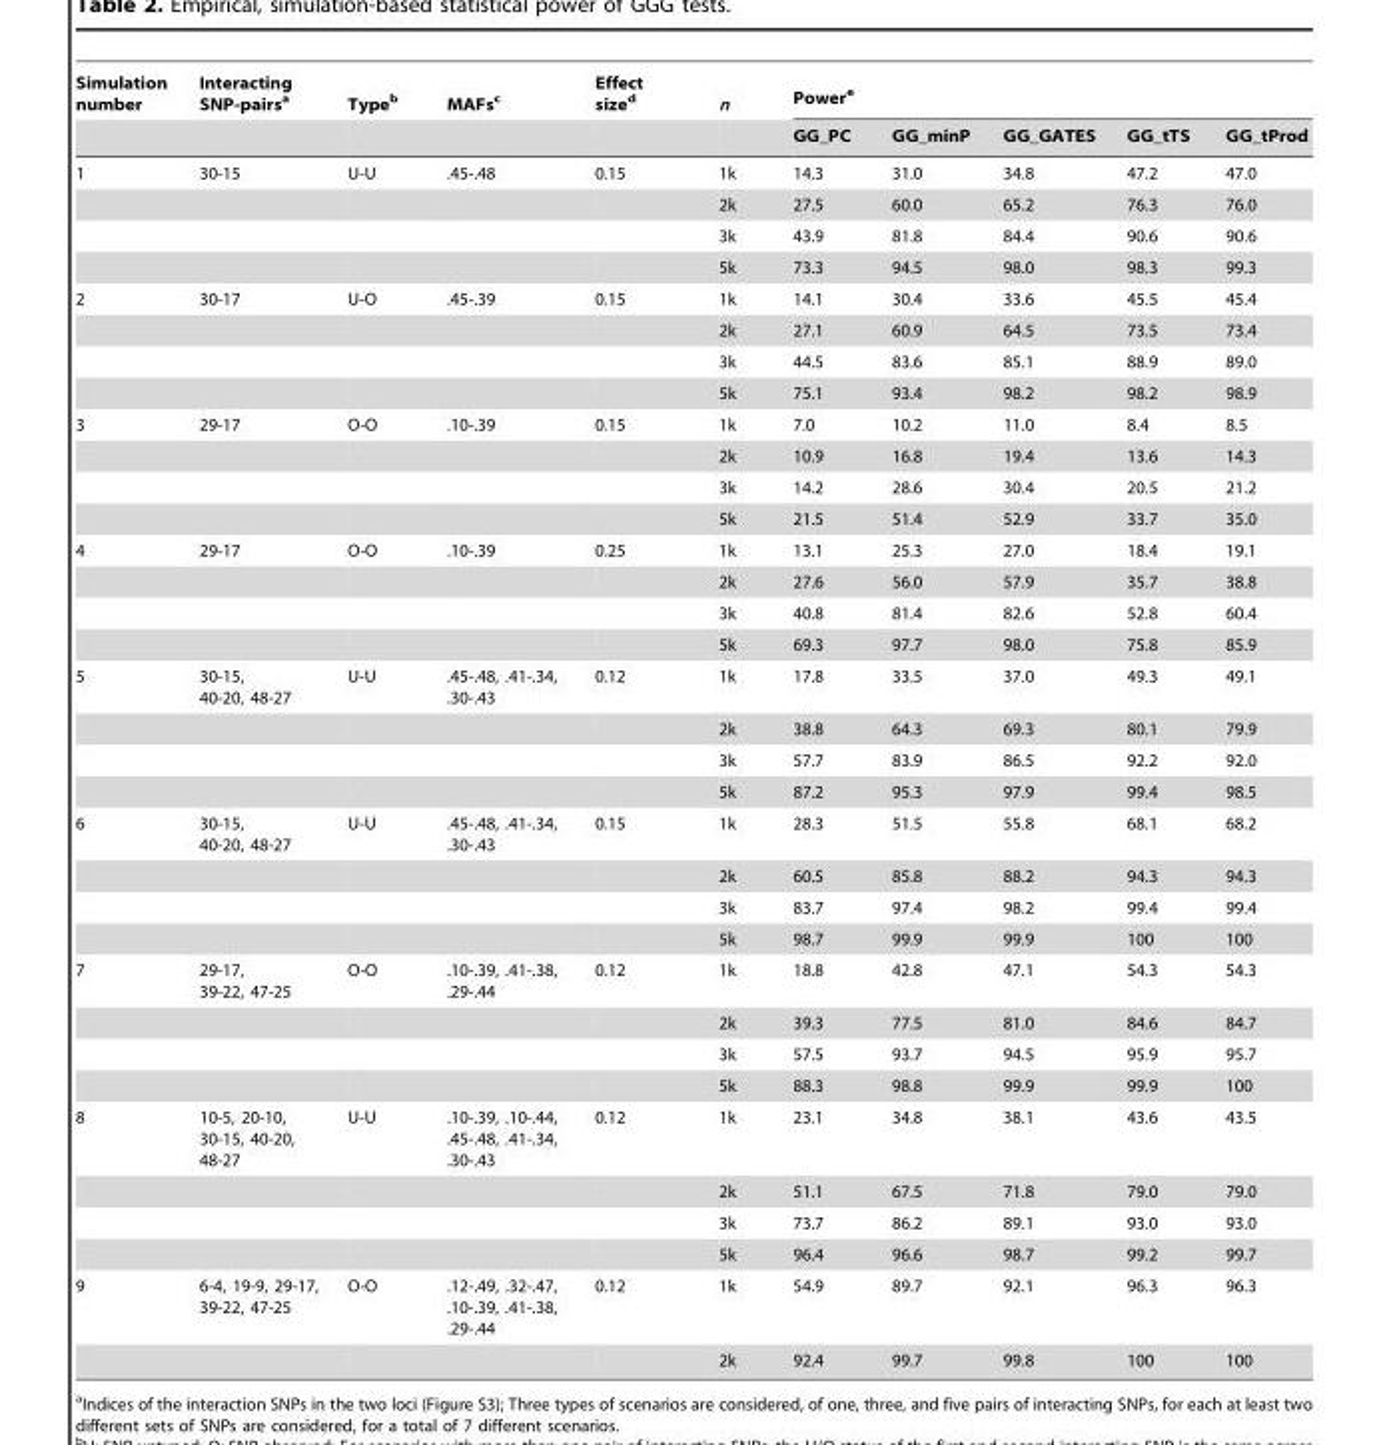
<table><thead><tr><td rowspan="2">Simulation number</td><td rowspan="2">Interacting SNP-pairs<sup>a</sup></td><td rowspan="2">Type<sup>b</sup></td><td rowspan="2">MAFs<sup>c</sup></td><td rowspan="2">Effect size<sup>d</sup></td><td rowspan="2">n</td><td colspan="5">Power<sup>e</sup></td></tr><tr><td>GG_PC</td><td>GG_minP</td><td>GG_GATES</td><td>GG_tTS</td><td>GG_tProd</td></tr></thead><tbody><tr><td rowspan="4">1</td><td>30-15</td><td>U-U</td><td>.45-.48</td><td>0.15</td><td>1k</td><td>14.3</td><td>31.0</td><td>34.8</td><td>47.2</td><td>47.0</td></tr><tr><td></td><td></td><td></td><td></td><td>2k</td><td>27.5</td><td>60.0</td><td>65.2</td><td>76.3</td><td>76.0</td></tr><tr><td></td><td></td><td></td><td></td><td>3k</td><td>43.9</td><td>81.8</td><td>84.4</td><td>90.6</td><td>90.6</td></tr><tr><td></td><td></td><td></td><td></td><td>5k</td><td>73.3</td><td>94.5</td><td>98.0</td><td>98.3</td><td>99.3</td></tr><tr><td rowspan="4">2</td><td>30-17</td><td>U-O</td><td>.45-.39</td><td>0.15</td><td>1k</td><td>14.1</td><td>30.4</td><td>33.6</td><td>45.5</td><td>45.4</td></tr><tr><td></td><td></td><td></td><td></td><td>2k</td><td>27.1</td><td>60.9</td><td>64.5</td><td>73.5</td><td>73.4</td></tr><tr><td></td><td></td><td></td><td></td><td>3k</td><td>44.5</td><td>83.6</td><td>85.1</td><td>88.9</td><td>89.0</td></tr><tr><td></td><td></td><td></td><td></td><td>5k</td><td>75.1</td><td>93.4</td><td>98.2</td><td>98.2</td><td>98.9</td></tr><tr><td rowspan="4">3</td><td>29-17</td><td>O-O</td><td>.10-.39</td><td>0.15</td><td>1k</td><td>7.0</td><td>10.2</td><td>11.0</td><td>8.4</td><td>8.5</td></tr><tr><td></td><td></td><td></td><td></td><td>2k</td><td>10.9</td><td>16.8</td><td>19.4</td><td>13.6</td><td>14.3</td></tr><tr><td></td><td></td><td></td><td></td><td>3k</td><td>14.2</td><td>28.6</td><td>30.4</td><td>20.5</td><td>21.2</td></tr><tr><td></td><td></td><td></td><td></td><td>5k</td><td>21.5</td><td>51.4</td><td>52.9</td><td>33.7</td><td>35.0</td></tr><tr><td rowspan="4">4</td><td>29-17</td><td>O-O</td><td>.10-.39</td><td>0.25</td><td>1k</td><td>13.1</td><td>25.3</td><td>27.0</td><td>18.4</td><td>19.1</td></tr><tr><td></td><td></td><td></td><td></td><td>2k</td><td>27.6</td><td>56.0</td><td>57.9</td><td>35.7</td><td>38.8</td></tr><tr><td></td><td></td><td></td><td></td><td>3k</td><td>40.8</td><td>81.4</td><td>82.6</td><td>52.8</td><td>60.4</td></tr><tr><td></td><td></td><td></td><td></td><td>5k</td><td>69.3</td><td>97.7</td><td>98.0</td><td>75.8</td><td>85.9</td></tr><tr><td rowspan="4">5</td><td>30-15, 40-20, 48-27</td><td>U-U</td><td>.45-.48, .41-.34, .30-.43</td><td>0.12</td><td>1k</td><td>17.8</td><td>33.5</td><td>37.0</td><td>49.3</td><td>49.1</td></tr><tr><td></td><td></td><td></td><td></td><td>2k</td><td>38.8</td><td>64.3</td><td>69.3</td><td>80.1</td><td>79.9</td></tr><tr><td></td><td></td><td></td><td></td><td>3k</td><td>57.7</td><td>83.9</td><td>86.5</td><td>92.2</td><td>92.0</td></tr><tr><td></td><td></td><td></td><td></td><td>5k</td><td>87.2</td><td>95.3</td><td>97.9</td><td>99.4</td><td>98.5</td></tr><tr><td rowspan="4">6</td><td>30-15, 40-20, 48-27</td><td>U-U</td><td>.45-.48, .41-.34, .30-.43</td><td>0.15</td><td>1k</td><td>28.3</td><td>51.5</td><td>55.8</td><td>68.1</td><td>68.2</td></tr><tr><td></td><td></td><td></td><td></td><td>2k</td><td>60.5</td><td>85.8</td><td>88.2</td><td>94.3</td><td>94.3</td></tr><tr><td></td><td></td><td></td><td></td><td>3k</td><td>83.7</td><td>97.4</td><td>98.2</td><td>99.4</td><td>99.4</td></tr><tr><td></td><td></td><td></td><td></td><td>5k</td><td>98.7</td><td>99.9</td><td>99.9</td><td>100</td><td>100</td></tr><tr><td rowspan="4">7</td><td>29-17, 39-22, 47-25</td><td>O-O</td><td>.10-.39, .41-.38, .29-.44</td><td>0.12</td><td>1k</td><td>18.8</td><td>42.8</td><td>47.1</td><td>54.3</td><td>54.3</td></tr><tr><td></td><td></td><td></td><td></td><td>2k</td><td>39.3</td><td>77.5</td><td>81.0</td><td>84.6</td><td>84.7</td></tr><tr><td></td><td></td><td></td><td></td><td>3k</td><td>57.5</td><td>93.7</td><td>94.5</td><td>95.9</td><td>95.7</td></tr><tr><td></td><td></td><td></td><td></td><td>5k</td><td>88.3</td><td>98.8</td><td>99.9</td><td>99.9</td><td>100</td></tr><tr><td rowspan="4">8</td><td>10-5, 20-10, 30-15, 40-20, 48-27</td><td>U-U</td><td>.10-.39, .10-.44, .45-.48, .41-.34, .30-.43</td><td>0.12</td><td>1k</td><td>23.1</td><td>34.8</td><td>38.1</td><td>43.6</td><td>43.5</td></tr><tr><td></td><td></td><td></td><td></td><td>2k</td><td>51.1</td><td>67.5</td><td>71.8</td><td>79.0</td><td>79.0</td></tr><tr><td></td><td></td><td></td><td></td><td>3k</td><td>73.7</td><td>86.2</td><td>89.1</td><td>93.0</td><td>93.0</td></tr><tr><td></td><td></td><td></td><td></td><td>5k</td><td>96.4</td><td>96.6</td><td>98.7</td><td>99.2</td><td>99.7</td></tr><tr><td rowspan="2">9</td><td>6-4, 19-9, 29-17, 39-22, 47-25</td><td>O-O</td><td>.12-.49, .32-.47, .10-.39, .41-.38, .29-.44</td><td>0.12</td><td>1k</td><td>54.9</td><td>89.7</td><td>92.1</td><td>96.3</td><td>96.3</td></tr><tr><td></td><td></td><td></td><td></td><td>2k</td><td>92.4</td><td>99.7</td><td>99.8</td><td>100</td><td>100</td></tr></tbody></table>